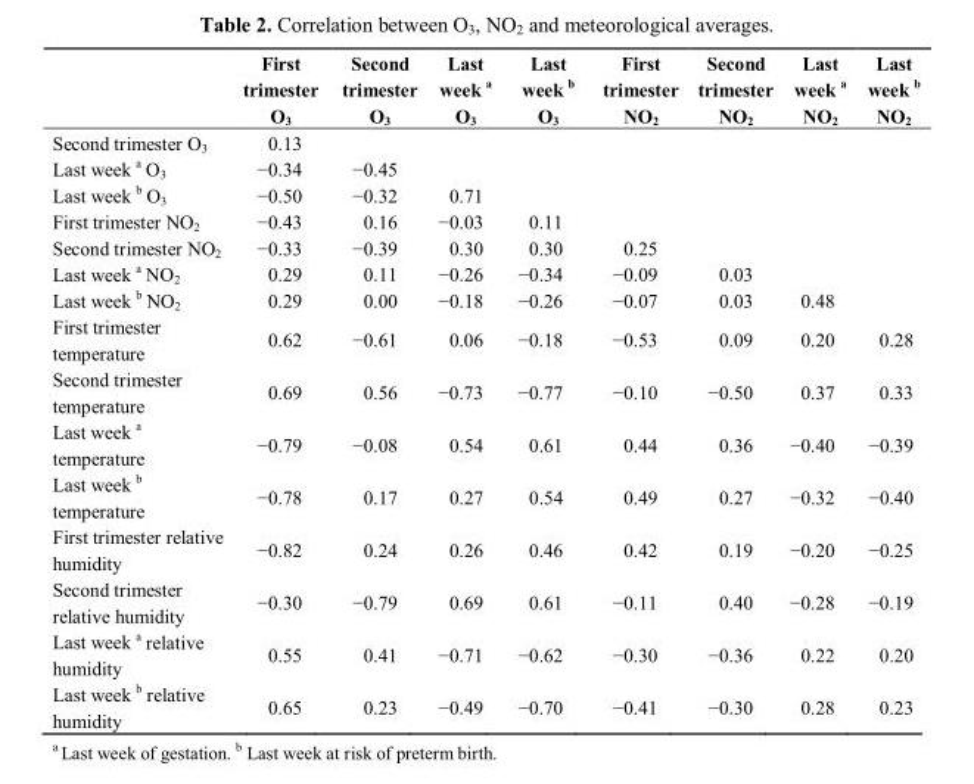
<table><thead><tr><td></td><td>First trimester O<sub>3</sub></td><td>Second trimester O<sub>3</sub></td><td>Last week <sup>a</sup> O<sub>3</sub></td><td>Last week <sup>b</sup> O<sub>3</sub></td><td>First trimester NO<sub>2</sub></td><td>Second trimester NO<sub>2</sub></td><td>Last week <sup>a</sup> NO<sub>2</sub></td><td>Last week <sup>b</sup> NO<sub>2</sub></td></tr></thead><tbody><tr><td>Second trimester O<sub>3</sub></td><td>0.13</td><td></td><td></td><td></td><td></td><td></td><td></td><td></td></tr><tr><td>Last week <sup>a</sup> O<sub>3</sub></td><td>−0.34</td><td>−0.45</td><td></td><td></td><td></td><td></td><td></td><td></td></tr><tr><td>Last week <sup>b</sup> O<sub>3</sub></td><td>−0.50</td><td>−0.32</td><td>0.71</td><td></td><td></td><td></td><td></td><td></td></tr><tr><td>First trimester NO<sub>2</sub></td><td>−0.43</td><td>0.16</td><td>−0.03</td><td>0.11</td><td></td><td></td><td></td><td></td></tr><tr><td>Second trimester NO<sub>2</sub></td><td>−0.33</td><td>−0.39</td><td>0.30</td><td>0.30</td><td>0.25</td><td></td><td></td><td></td></tr><tr><td>Last week <sup>a</sup> NO<sub>2</sub></td><td>0.29</td><td>0.11</td><td>−0.26</td><td>−0.34</td><td>−0.09</td><td>0.03</td><td></td><td></td></tr><tr><td>Last week <sup>b</sup> NO<sub>2</sub></td><td>0.29</td><td>0.00</td><td>−0.18</td><td>−0.26</td><td>−0.07</td><td>0.03</td><td>0.48</td><td></td></tr><tr><td>First trimester temperature</td><td>0.62</td><td>−0.61</td><td>0.06</td><td>−0.18</td><td>−0.53</td><td>0.09</td><td>0.20</td><td>0.28</td></tr><tr><td>Second trimester temperature</td><td>0.69</td><td>0.56</td><td>−0.73</td><td>−0.77</td><td>−0.10</td><td>−0.50</td><td>0.37</td><td>0.33</td></tr><tr><td>Last week <sup>a</sup> temperature</td><td>−0.79</td><td>−0.08</td><td>0.54</td><td>0.61</td><td>0.44</td><td>0.36</td><td>−0.40</td><td>−0.39</td></tr><tr><td>Last week <sup>b</sup> temperature</td><td>−0.78</td><td>0.17</td><td>0.27</td><td>0.54</td><td>0.49</td><td>0.27</td><td>−0.32</td><td>−0.40</td></tr><tr><td>First trimester relative humidity</td><td>−0.82</td><td>0.24</td><td>0.26</td><td>0.46</td><td>0.42</td><td>0.19</td><td>−0.20</td><td>−0.25</td></tr><tr><td>Second trimester relative humidity</td><td>−0.30</td><td>−0.79</td><td>0.69</td><td>0.61</td><td>−0.11</td><td>0.40</td><td>−0.28</td><td>−0.19</td></tr><tr><td>Last week <sup>a</sup> relative humidity</td><td>0.55</td><td>0.41</td><td>−0.71</td><td>−0.62</td><td>−0.30</td><td>−0.36</td><td>0.22</td><td>0.20</td></tr><tr><td>Last week <sup>b</sup> relative humidity</td><td>0.65</td><td>0.23</td><td>−0.49</td><td>−0.70</td><td>−0.41</td><td>−0.30</td><td>0.28</td><td>0.23</td></tr></tbody></table>